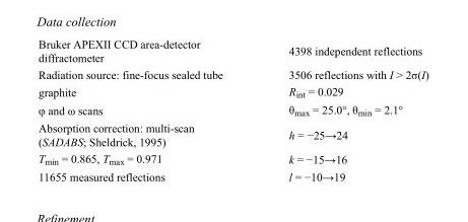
<table><tbody><tr><td>Bruker APEXII CCD area-detector diffractometer</td><td>4398 independent reflections</td></tr><tr><td>Radiation source: fine-focus sealed tube</td><td>3506 reflections with I &gt; 2σ(I)</td></tr><tr><td>graphite</td><td>R<sub>int</sub> = 0.029</td></tr><tr><td>φ and ω scans</td><td>θ<sub>max</sub> = 25.0°, θ<sub>min</sub> = 2.1°</td></tr><tr><td>Absorption correction: multi-scan (SADABS; Sheldrick, 1995)</td><td>h = −25→24</td></tr><tr><td>T<sub>min</sub> = 0.865, T<sub>max</sub> = 0.971</td><td>k = −15→16</td></tr><tr><td>11655 measured reflections</td><td>l = −10→19</td></tr></tbody></table>